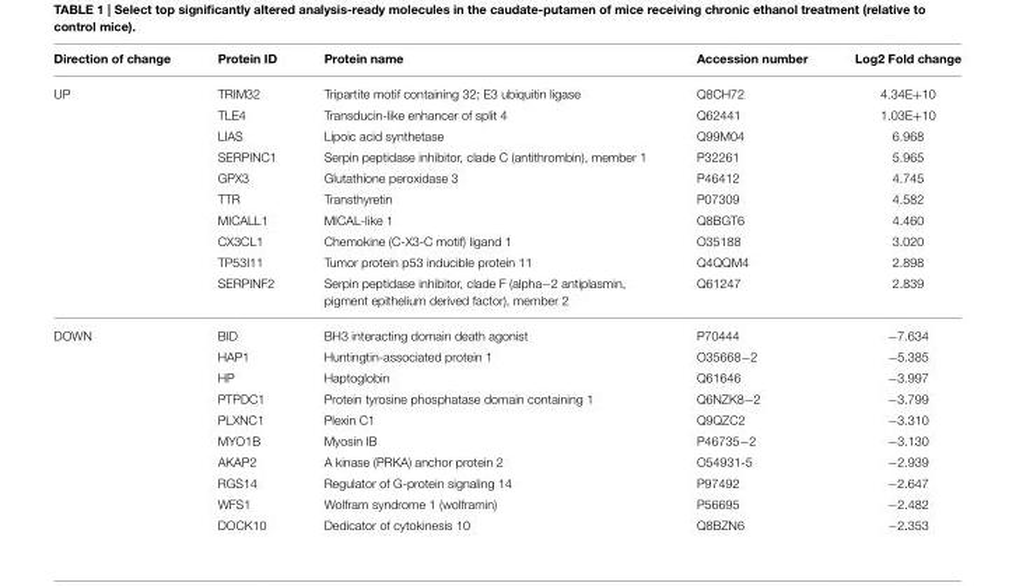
<table><thead><tr><td>Direction of change</td><td>Protein ID</td><td>Protein name</td><td>Accession number</td><td>Log2 Fold change</td></tr></thead><tbody><tr><td rowspan="10">UP</td><td>TRIM32</td><td>Tripartite motif containing 32; E3 ubiquitin ligase</td><td>Q8CH72</td><td>4.34E+10</td></tr><tr><td>TLE4</td><td>Transducin-like enhancer of split 4</td><td>Q62441</td><td>1.03E+10</td></tr><tr><td>LIAS</td><td>Lipoic acid synthetase</td><td>Q99M04</td><td>6.968</td></tr><tr><td>SERPINC1</td><td>Serpin peptidase inhibitor, clade C (antithrombin), member 1</td><td>P32261</td><td>5.965</td></tr><tr><td>GPX3</td><td>Glutathione peroxidase 3</td><td>P46412</td><td>4.745</td></tr><tr><td>TTR</td><td>Transthyretin</td><td>P07309</td><td>4.582</td></tr><tr><td>MICALL1</td><td>MICAL-like 1</td><td>Q8BGT6</td><td>4.460</td></tr><tr><td>CX3CL1</td><td>Chemokine (C-X3-C motif) ligand 1</td><td>O35188</td><td>3.020</td></tr><tr><td>TP53I11</td><td>Tumor protein p53 inducible protein 11</td><td>Q4QQM4</td><td>2.898</td></tr><tr><td>SERPINF2</td><td>Serpin peptidase inhibitor, clade F (alpha−2 antiplasmin, pigment epithelium derived factor), member 2</td><td>Q61247</td><td>2.839</td></tr><tr><td rowspan="10">DOWN</td><td>BID</td><td>BH3 interacting domain death agonist</td><td>P70444</td><td>−7.634</td></tr><tr><td>HAP1</td><td>Huntingtin-associated protein 1</td><td>O35668−2</td><td>−5.385</td></tr><tr><td>HP</td><td>Haptoglobin</td><td>Q61646</td><td>−3.997</td></tr><tr><td>PTPDC1</td><td>Protein tyrosine phosphatase domain containing 1</td><td>Q6NZK8−2</td><td>−3.799</td></tr><tr><td>PLXNC1</td><td>Plexin C1</td><td>Q9QZC2</td><td>−3.310</td></tr><tr><td>MYO1B</td><td>Myosin IB</td><td>P46735−2</td><td>−3.130</td></tr><tr><td>AKAP2</td><td>A kinase (PRKA) anchor protein 2</td><td>O54931-5</td><td>−2.939</td></tr><tr><td>RGS14</td><td>Regulator of G-protein signaling 14</td><td>P97492</td><td>−2.647</td></tr><tr><td>WFS1</td><td>Wolfram syndrome 1 (wolframin)</td><td>P56695</td><td>−2.482</td></tr><tr><td>DOCK10</td><td>Dedicator of cytokinesis 10</td><td>Q8BZN6</td><td>−2.353</td></tr></tbody></table>